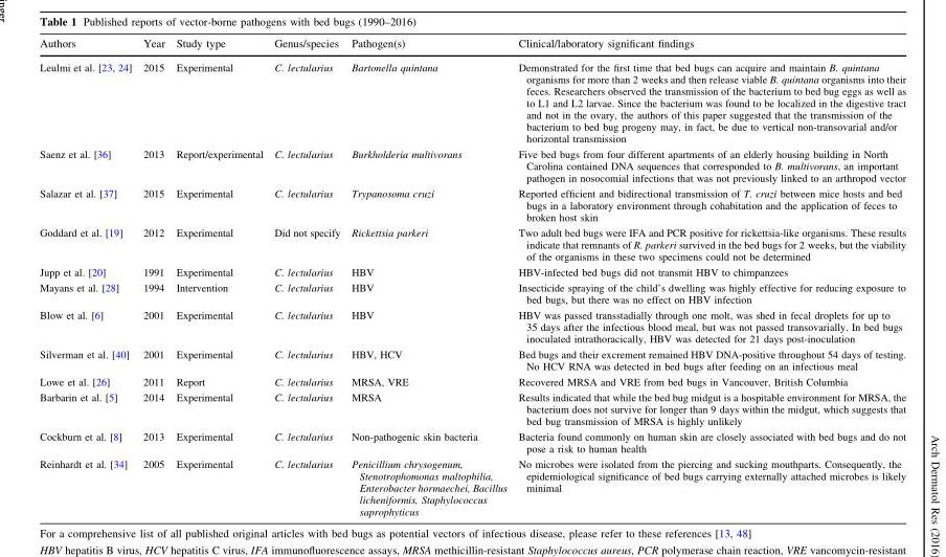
<table><thead><tr><td>Authors</td><td>Year</td><td>Study type</td><td>Genus/species</td><td>Pathogen(s)</td><td>Clinical/laboratory significant findings</td></tr></thead><tbody><tr><td>Leulmi et al. [23, 24]</td><td>2015</td><td>Experimental</td><td>C. lectularius</td><td>Bartonella quintana</td><td>Demonstrated for the first time that bed bugs can acquire and maintain B. quintana organisms for more than 2 weeks and then release viable B. quintana organisms into their feces. Researchers observed the transmission of the bacterium to bed bug eggs as well as to L1 and L2 larvae. Since the bacterium was found to be localized in the digestive tract and not in the ovary, the authors of this paper suggested that the transmission of the bacterium to bed bug progeny may, in fact, be due to vertical non-transovarial and/or horizontal transmission</td></tr><tr><td>Saenz et al. [36]</td><td>2013</td><td>Report/experimental</td><td>C. lectularius</td><td>Burkholderia multivorans</td><td>Five bed bugs from four different apartments of an elderly housing building in North Carolina contained DNA sequences that corresponded to B. multivorans, an important pathogen in nosocomial infections that was not previously linked to an arthropod vector</td></tr><tr><td>Salazar et al. [37]</td><td>2015</td><td>Experimental</td><td>C. lectularius</td><td>Trypanosoma cruzi</td><td>Reported efficient and bidirectional transmission of T. cruzi between mice hosts and bed bugs in a laboratory environment through cohabitation and the application of feces to broken host skin</td></tr><tr><td>Goddard et al. [19]</td><td>2012</td><td>Experimental</td><td>Did not specify</td><td>Rickettsia parkeri</td><td>Two adult bed bugs were IFA and PCR positive for rickettsia-like organisms. These results indicate that remnants of R. parkeri survived in the bed bugs for 2 weeks, but the viability of the organisms in these two specimens could not be determined</td></tr><tr><td>Jupp et al. [20]</td><td>1991</td><td>Experimental</td><td>C. lectularius</td><td>HBV</td><td>HBV-infected bed bugs did not transmit HBV to chimpanzees</td></tr><tr><td>Mayans et al. [28]</td><td>1994</td><td>Intervention</td><td>C. lectularius</td><td>HBV</td><td>Insecticide spraying of the child’s dwelling was highly effective for reducing exposure to bed bugs, but there was no effect on HBV infection</td></tr><tr><td>Blow et al. [6]</td><td>2001</td><td>Experimental</td><td>C. lectularius</td><td>HBV</td><td>HBV was passed transstadially through one molt, was shed in fecal droplets for up to 35 days after the infectious blood meal, but was not passed transovarially. In bed bugs inoculated intrathoracically, HBV was detected for 21 days post-inoculation</td></tr><tr><td>Silverman et al. [40]</td><td>2001</td><td>Experimental</td><td>C. lectularius</td><td>HBV, HCV</td><td>Bed bugs and their excrement remained HBV DNA-positive throughout 54 days of testing. No HCV RNA was detected in bed bugs after feeding on an infectious meal</td></tr><tr><td>Lowe et al. [26]</td><td>2011</td><td>Report</td><td>C. lectularius</td><td>MRSA, VRE</td><td>Recovered MRSA and VRE from bed bugs in Vancouver, British Columbia</td></tr><tr><td>Barbarin et al. [5]</td><td>2014</td><td>Experimental</td><td>C. lectularius</td><td>MRSA</td><td>Results indicated that while the bed bug midgut is a hospitable environment for MRSA, the bacterium does not survive for longer than 9 days within the midgut, which suggests that bed bug transmission of MRSA is highly unlikely</td></tr><tr><td>Cockburn et al. [8]</td><td>2013</td><td>Experimental</td><td>C. lectularius</td><td>Non-pathogenic skin bacteria</td><td>Bacteria found commonly on human skin are closely associated with bed bugs and do not pose a risk to human health</td></tr><tr><td>Reinhardt et al. [34]</td><td>2005</td><td>Experimental</td><td>C. lectularius</td><td>Penicillium chrysogenum, Stenotrophomonas maltophilia, Enterobacter hormaechei, Bacillus licheniformis, Staphylococcus saprophyticus</td><td>No microbes were isolated from the piercing and sucking mouthparts. Consequently, the epidemiological significance of bed bugs carrying externally attached microbes is likely minimal</td></tr></tbody></table>